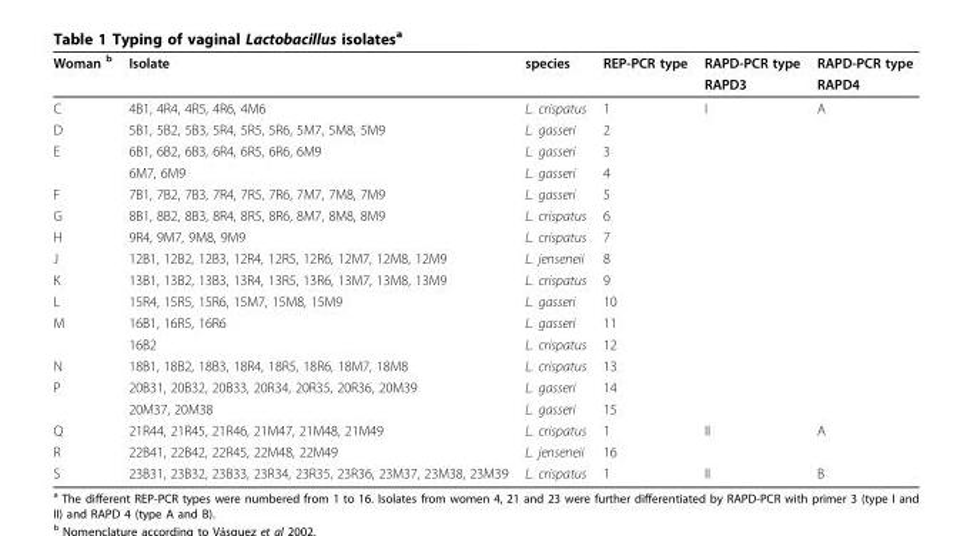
<table><thead><tr><td rowspan="2">Woman <sup>b</sup></td><td rowspan="2">Isolate</td><td rowspan="2">species</td><td rowspan="2">REP-PCR type</td><td rowspan="2">RAPD-PCR type RAPD3</td><td rowspan="2">RAPD-PCR type RAPD4</td></tr><tr></tr></thead><tbody><tr><td>C</td><td>4B1, 4R4, 4R5, 4R6, 4M6</td><td>L. crispatus</td><td>1</td><td>I</td><td>A</td></tr><tr><td>D</td><td>5B1, 5B2, 5B3, 5R4, 5R5, 5R6, 5M7, 5M8, 5M9</td><td>L. gasseri</td><td>2</td><td></td><td></td></tr><tr><td rowspan="2">E</td><td>6B1, 6B2, 6B3, 6R4, 6R5, 6R6, 6M9</td><td>L. gasseri</td><td>3</td><td></td><td></td></tr><tr><td>6M7, 6M9</td><td>L. gasseri</td><td>4</td><td></td><td></td></tr><tr><td>F</td><td>7B1, 7B2, 7B3, 7R4, 7R5, 7R6, 7M7, 7M8, 7M9</td><td>L. gasseri</td><td>5</td><td></td><td></td></tr><tr><td>G</td><td>8B1, 8B2, 8B3, 8R4, 8R5, 8R6, 8M7, 8M8, 8M9</td><td>L. crispatus</td><td>6</td><td></td><td></td></tr><tr><td>H</td><td>9R4, 9M7, 9M8, 9M9</td><td>L. crispatus</td><td>7</td><td></td><td></td></tr><tr><td>J</td><td>12B1, 12B2, 12B3, 12R4, 12R5, 12R6, 12M7, 12M8, 12M9</td><td>L. jenseneii</td><td>8</td><td></td><td></td></tr><tr><td>K</td><td>13B1, 13B2, 13B3, 13R4, 13R5, 13R6, 13M7, 13M8, 13M9</td><td>L. crispatus</td><td>9</td><td></td><td></td></tr><tr><td>L</td><td>15R4, 15R5, 15R6, 15M7, 15M8, 15M9</td><td>L. gasseri</td><td>10</td><td></td><td></td></tr><tr><td rowspan="2">M</td><td>16B1, 16R5, 16R6</td><td>L. gasseri</td><td>11</td><td></td><td></td></tr><tr><td>16B2</td><td>L. crispatus</td><td>12</td><td></td><td></td></tr><tr><td>N</td><td>18B1, 18B2, 18B3, 18R4, 18R5, 18R6, 18M7, 18M8</td><td>L. crispatus</td><td>13</td><td></td><td></td></tr><tr><td rowspan="2">P</td><td>20B31, 20B32, 20B33, 20R34, 20R35, 20R36, 20M39</td><td>L. gasseri</td><td>14</td><td></td><td></td></tr><tr><td>20M37, 20M38</td><td>L. gasseri</td><td>15</td><td></td><td></td></tr><tr><td>Q</td><td>21R44, 21R45, 21R46, 21M47, 21M48, 21M49</td><td>L. crispatus</td><td>1</td><td>II</td><td>A</td></tr><tr><td>R</td><td>22B41, 22B42, 22R45, 22M48, 22M49</td><td>L. jenseneii</td><td>16</td><td></td><td></td></tr><tr><td>S</td><td>23B31, 23B32, 23B33, 23R34, 23R35, 23R36, 23M37, 23M38, 23M39</td><td>L. crispatus</td><td>1</td><td>II</td><td>B</td></tr></tbody></table>